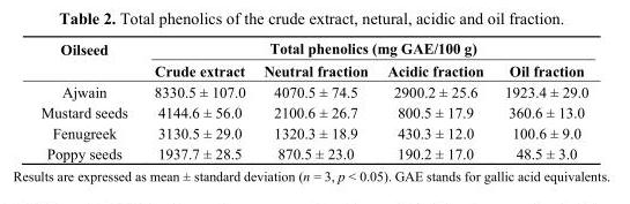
<table><thead><tr><td rowspan="2">Oilseed</td><td colspan="4">Total phenolics (mg GAE/100 g)</td></tr><tr><td>Crude extract</td><td>Neutral fraction</td><td>Acidic fraction</td><td>Oil fraction</td></tr></thead><tbody><tr><td>Ajwain</td><td>8330.5 ± 107.0</td><td>4070.5 ± 74.5</td><td>2900.2 ± 25.6</td><td>1923.4 ± 29.0</td></tr><tr><td>Mustard seeds</td><td>4144.6 ± 56.0</td><td>2100.6 ± 26.7</td><td>800.5 ± 17.9</td><td>360.6 ± 13.0</td></tr><tr><td>Fenugreek</td><td>3130.5 ± 29.0</td><td>1320.3 ± 18.9</td><td>430.3 ± 12.0</td><td>100.6 ± 9.0</td></tr><tr><td>Poppy seeds</td><td>1937.7 ± 28.5</td><td>870.5 ± 23.0</td><td>190.2 ± 17.0</td><td>48.5 ± 3.0</td></tr></tbody></table>